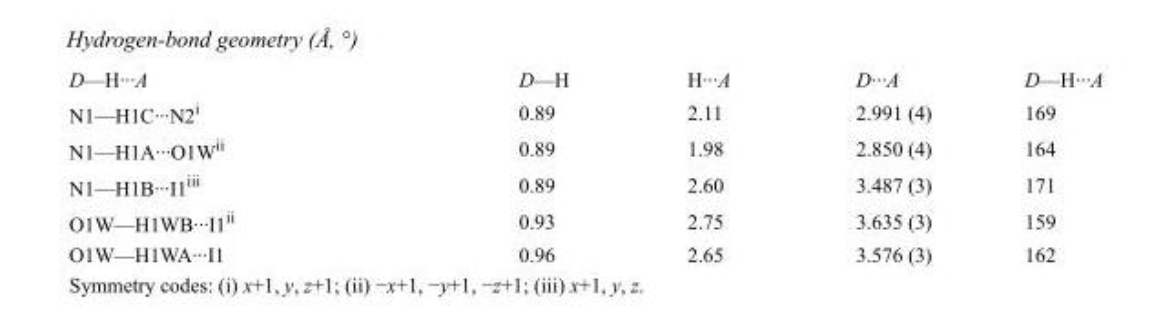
<table><tbody><tr><td>D—H···A</td><td>D—H</td><td>H···A</td><td>D···A</td><td>D—H···A</td></tr><tr><td>N1—H1C···N2<sup>i</sup></td><td>0.89</td><td>2.11</td><td>2.991 (4)</td><td>169</td></tr><tr><td>N1—H1A···O1W<sup>ii</sup></td><td>0.89</td><td>1.98</td><td>2.850 (4)</td><td>164</td></tr><tr><td>N1—H1B···I1<sup>iii</sup></td><td>0.89</td><td>2.60</td><td>3.487 (3)</td><td>171</td></tr><tr><td>O1W—H1WB···I1<sup>ii</sup></td><td>0.93</td><td>2.75</td><td>3.635 (3)</td><td>159</td></tr><tr><td>O1W—H1WA···I1</td><td>0.96</td><td>2.65</td><td>3.576 (3)</td><td>162</td></tr></tbody></table>